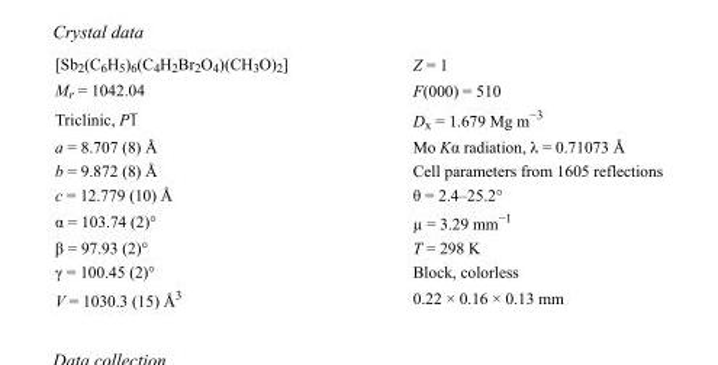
<table><tbody><tr><td>[Sb<sub>2</sub>(C<sub>6</sub>H<sub>5</sub>)<sub>6</sub>(C<sub>4</sub>H<sub>2</sub>Br<sub>2</sub>O<sub>4</sub>)(CH<sub>3</sub>O)<sub>2</sub>]</td><td>Z = 1</td></tr><tr><td>M<sub>r</sub> = 1042.04</td><td>F(000) = 510</td></tr><tr><td>Triclinic, P1</td><td>D<sub>x</sub> = 1.679 Mg m<sup>−3</sup></td></tr><tr><td>a = 8.707 (8) Å</td><td>Mo Kα radiation, λ = 0.71073 Å</td></tr><tr><td>b = 9.872 (8) Å</td><td>Cell parameters from 1605 reflections</td></tr><tr><td>c = 12.779 (10) Å</td><td>θ = 2.4–25.2°</td></tr><tr><td>α = 103.74 (2)°</td><td>µ = 3.29 mm<sup>−1</sup></td></tr><tr><td>β = 97.93 (2)°</td><td>T = 298 K</td></tr><tr><td>γ = 100.45 (2)°</td><td>Block, colorless</td></tr><tr><td>V = 1030.3 (15) Å<sup>3</sup></td><td>0.22 × 0.16 × 0.13 mm</td></tr></tbody></table>